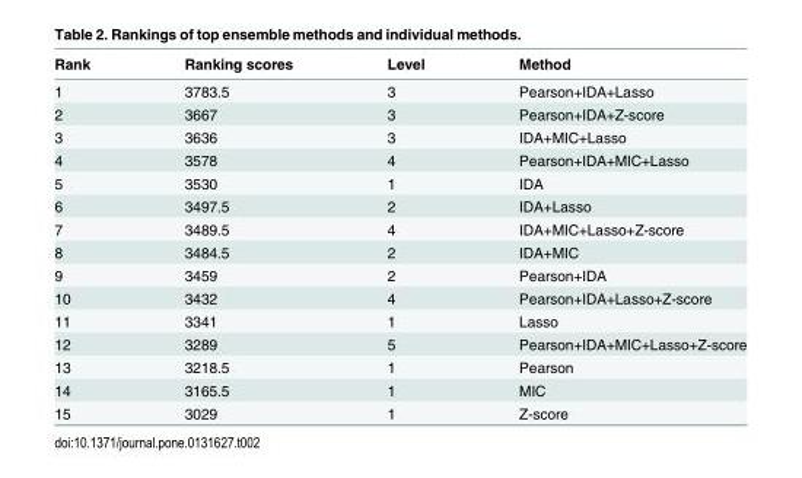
<table><thead><tr><td>Rank</td><td>Ranking scores</td><td>Level</td><td>Method</td></tr></thead><tbody><tr><td>1</td><td>3783.5</td><td>3</td><td>Pearson+IDA+Lasso</td></tr><tr><td>2</td><td>3667</td><td>3</td><td>Pearson+IDA+Z-score</td></tr><tr><td>3</td><td>3636</td><td>3</td><td>IDA+MIC+Lasso</td></tr><tr><td>4</td><td>3578</td><td>4</td><td>Pearson+IDA+MIC+Lasso</td></tr><tr><td>5</td><td>3530</td><td>1</td><td>IDA</td></tr><tr><td>6</td><td>3497.5</td><td>2</td><td>IDA+Lasso</td></tr><tr><td>7</td><td>3489.5</td><td>4</td><td>IDA+MIC+Lasso+Z-score</td></tr><tr><td>8</td><td>3484.5</td><td>2</td><td>IDA+MIC</td></tr><tr><td>9</td><td>3459</td><td>2</td><td>Pearson+IDA</td></tr><tr><td>10</td><td>3432</td><td>4</td><td>Pearson+IDA+Lasso+Z-score</td></tr><tr><td>11</td><td>3341</td><td>1</td><td>Lasso</td></tr><tr><td>12</td><td>3289</td><td>5</td><td>Pearson+IDA+MIC+Lasso+Z-score</td></tr><tr><td>13</td><td>3218.5</td><td>1</td><td>Pearson</td></tr><tr><td>14</td><td>3165.5</td><td>1</td><td>MIC</td></tr><tr><td>15</td><td>3029</td><td>1</td><td>Z-score</td></tr></tbody></table>